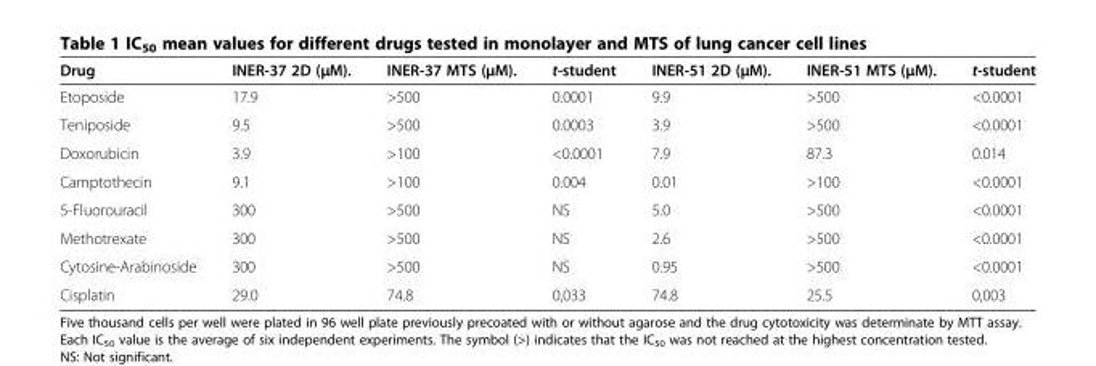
<table><thead><tr><td>Drug</td><td>INER-37 2D (μM).</td><td>INER-37 MTS (μM).</td><td>t-student</td><td>INER-51 2D (μM).</td><td>INER-51 MTS (μM).</td><td>t-student</td></tr></thead><tbody><tr><td>Etoposide</td><td>17.9</td><td>&gt;500</td><td>0.0001</td><td>9.9</td><td>&gt;500</td><td>&lt;0.0001</td></tr><tr><td>Teniposide</td><td>9.5</td><td>&gt;500</td><td>0.0003</td><td>3.9</td><td>&gt;500</td><td>&lt;0.0001</td></tr><tr><td>Doxorubicin</td><td>3.9</td><td>&gt;100</td><td>&lt;0.0001</td><td>7.9</td><td>87.3</td><td>0.014</td></tr><tr><td>Camptothecin</td><td>9.1</td><td>&gt;100</td><td>0.004</td><td>0.01</td><td>&gt;100</td><td>&lt;0.0001</td></tr><tr><td>5-Fluorouracil</td><td>300</td><td>&gt;500</td><td>NS</td><td>5.0</td><td>&gt;500</td><td>&lt;0.0001</td></tr><tr><td>Methotrexate</td><td>300</td><td>&gt;500</td><td>NS</td><td>2.6</td><td>&gt;500</td><td>&lt;0.0001</td></tr><tr><td>Cytosine-Arabinoside</td><td>300</td><td>&gt;500</td><td>NS</td><td>0.95</td><td>&gt;500</td><td>&lt;0.0001</td></tr><tr><td>Cisplatin</td><td>29.0</td><td>74.8</td><td>0,033</td><td>74.8</td><td>25.5</td><td>0,003</td></tr></tbody></table>